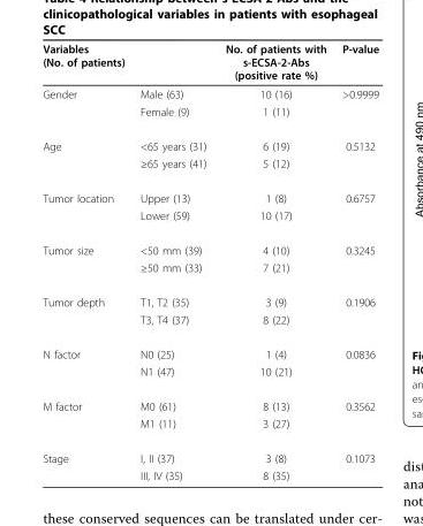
<table><thead><tr><td>Variables (No. of patients)</td><td></td><td>No. of patients with s-ECSA-2-Abs (positive rate %)</td><td>P-value</td></tr></thead><tbody><tr><td rowspan="2">Gender</td><td>Male (63)</td><td>10 (16)</td><td>&gt;0.9999</td></tr><tr><td>Female (9)</td><td>1 (11)</td><td></td></tr><tr><td rowspan="2">Age</td><td>&lt;65 years (31)</td><td>6 (19)</td><td>0.5132</td></tr><tr><td>≥65 years (41)</td><td>5 (12)</td><td></td></tr><tr><td rowspan="2">Tumor location</td><td>Upper (13)</td><td>1 (8)</td><td>0.6757</td></tr><tr><td>Lower (59)</td><td>10 (17)</td><td></td></tr><tr><td rowspan="2">Tumor size</td><td>&lt;50 mm (39)</td><td>4 (10)</td><td>0.3245</td></tr><tr><td>≥50 mm (33)</td><td>7 (21)</td><td></td></tr><tr><td rowspan="2">Tumor depth</td><td>T1, T2 (35)</td><td>3 (9)</td><td>0.1906</td></tr><tr><td>T3, T4 (37)</td><td>8 (22)</td><td></td></tr><tr><td rowspan="2">N factor</td><td>N0 (25)</td><td>1 (4)</td><td>0.0836</td></tr><tr><td>N1 (47)</td><td>10 (21)</td><td></td></tr><tr><td rowspan="2">M factor</td><td>M0 (61)</td><td>8 (13)</td><td>0.3562</td></tr><tr><td>M1 (11)</td><td>3 (27)</td><td></td></tr><tr><td rowspan="2">Stage</td><td>I, II (37)</td><td>3 (8)</td><td>0.1073</td></tr><tr><td>III, IV (35)</td><td>8 (35)</td><td></td></tr></tbody></table>